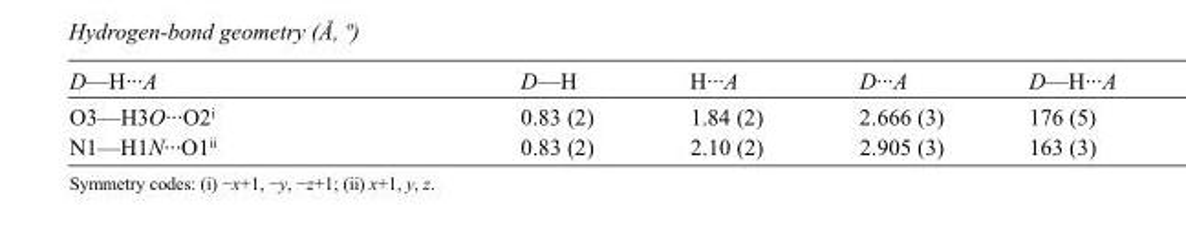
<table><tbody><tr><td>D—H···A</td><td>D—H</td><td>H···A</td><td>D···A</td><td>D—H···A</td></tr><tr><td>O3—H3O···O2<sup>i</sup></td><td>0.83 (2)</td><td>1.84 (2)</td><td>2.666 (3)</td><td>176 (5)</td></tr><tr><td>N1—H1N···O1<sup>ii</sup></td><td>0.83 (2)</td><td>2.10 (2)</td><td>2.905 (3)</td><td>163 (3)</td></tr></tbody></table>